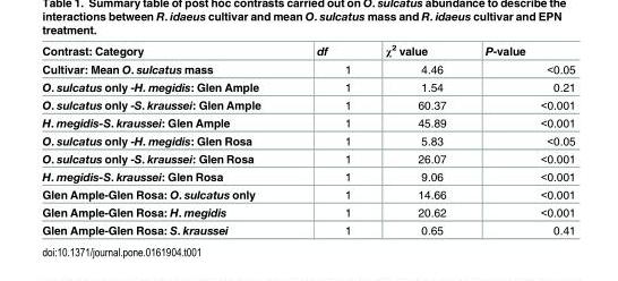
<table><thead><tr><td>Contrast: Category</td><td>df</td><td>χ<sup>2</sup> value</td><td>P-value</td></tr></thead><tbody><tr><td>Cultivar: Mean O. sulcatus mass</td><td>1</td><td>4.46</td><td>&lt;0.05</td></tr><tr><td>O. sulcatus only -H. megidis: Glen Ample</td><td>1</td><td>1.54</td><td>0.21</td></tr><tr><td>O. sulcatus only -S. kraussei: Glen Ample</td><td>1</td><td>60.37</td><td>&lt;0.001</td></tr><tr><td>H. megidis-S. kraussei: Glen Ample</td><td>1</td><td>45.89</td><td>&lt;0.001</td></tr><tr><td>O. sulcatus only -H. megidis: Glen Rosa</td><td>1</td><td>5.83</td><td>&lt;0.05</td></tr><tr><td>O. sulcatus only -S. kraussei: Glen Rosa</td><td>1</td><td>26.07</td><td>&lt;0.001</td></tr><tr><td>H. megidis-S. kraussei: Glen Rosa</td><td>1</td><td>9.06</td><td>&lt;0.001</td></tr><tr><td>Glen Ample-Glen Rosa: O. sulcatus only</td><td>1</td><td>14.66</td><td>&lt;0.001</td></tr><tr><td>Glen Ample-Glen Rosa: H. megidis</td><td>1</td><td>20.62</td><td>&lt;0.001</td></tr><tr><td>Glen Ample-Glen Rosa: S. kraussei</td><td>1</td><td>0.65</td><td>0.41</td></tr></tbody></table>